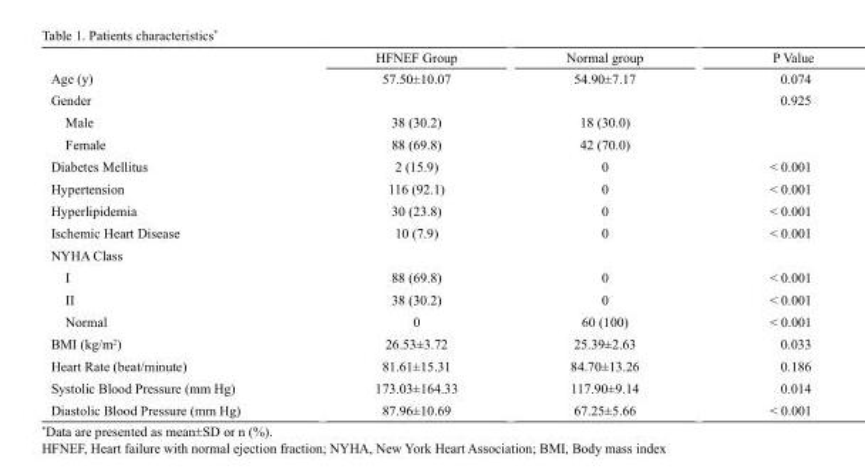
<table><thead><tr><td></td><td>HFNEF Group</td><td>Normal group</td><td>P Value</td></tr></thead><tbody><tr><td>Age (y)</td><td>57.50±10.07</td><td>54.90±7.17</td><td>0.074</td></tr><tr><td>Gender</td><td></td><td></td><td>0.925</td></tr><tr><td>Male</td><td>38 (30.2)</td><td>18 (30.0)</td><td></td></tr><tr><td>Female</td><td>88 (69.8)</td><td>42 (70.0)</td><td></td></tr><tr><td>Diabetes Mellitus</td><td>2 (15.9)</td><td>0</td><td>&lt; 0.001</td></tr><tr><td>Hypertension</td><td>116 (92.1)</td><td>0</td><td>&lt; 0.001</td></tr><tr><td>Hyperlipidemia</td><td>30 (23.8)</td><td>0</td><td>&lt; 0.001</td></tr><tr><td>Ischemic Heart Disease</td><td>10 (7.9)</td><td>0</td><td>&lt; 0.001</td></tr><tr><td colspan="4">NYHA Class</td></tr><tr><td>I</td><td>88 (69.8)</td><td>0</td><td>&lt; 0.001</td></tr><tr><td>II</td><td>38 (30.2)</td><td>0</td><td>&lt; 0.001</td></tr><tr><td>Normal</td><td>0</td><td>60 (100)</td><td>&lt; 0.001</td></tr><tr><td>BMI (kg/m<sup>2</sup>)</td><td>26.53±3.72</td><td>25.39±2.63</td><td>0.033</td></tr><tr><td>Heart Rate (beat/minute)</td><td>81.61±15.31</td><td>84.70±13.26</td><td>0.186</td></tr><tr><td>Systolic Blood Pressure (mm Hg)</td><td>173.03±164.33</td><td>117.90±9.14</td><td>0.014</td></tr><tr><td>Diastolic Blood Pressure (mm Hg)</td><td>87.96±10.69</td><td>67.25±5.66</td><td>&lt; 0.001</td></tr></tbody></table>